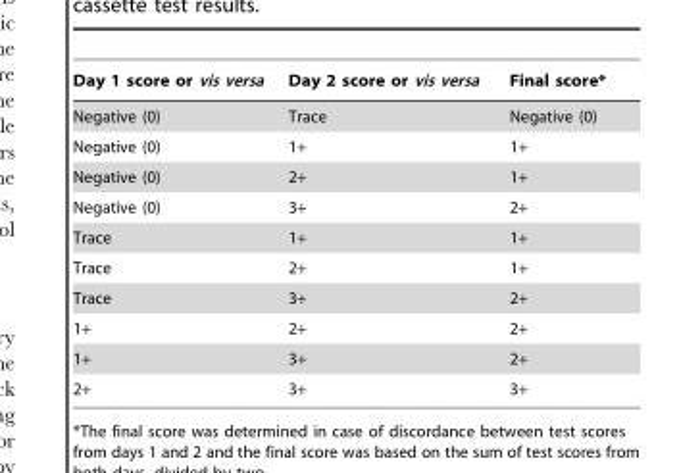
<table><thead><tr><td>Day 1 score or vis versa</td><td>Day 2 score or vis versa</td><td>Final score*</td></tr></thead><tbody><tr><td>Negative (0)</td><td>Trace</td><td>Negative (0)</td></tr><tr><td>Negative (0)</td><td>1+</td><td>1+</td></tr><tr><td>Negative (0)</td><td>2+</td><td>1+</td></tr><tr><td>Negative (0)</td><td>3+</td><td>2+</td></tr><tr><td>Trace</td><td>1+</td><td>1+</td></tr><tr><td>Trace</td><td>2+</td><td>1+</td></tr><tr><td>Trace</td><td>3+</td><td>2+</td></tr><tr><td>1+</td><td>2+</td><td>2+</td></tr><tr><td>1+</td><td>3+</td><td>2+</td></tr><tr><td>2+</td><td>3+</td><td>3+</td></tr></tbody></table>